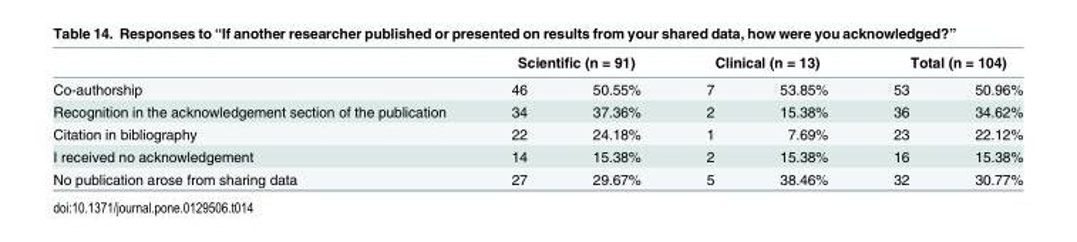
<table><thead><tr><td rowspan="2">Co-authorship</td><td colspan="2">Scientific (n = 91)</td><td colspan="2">Clinical (n = 13)</td><td colspan="2">Total (n = 104)</td></tr><tr><td>46</td><td>50.55%</td><td>7</td><td>53.85%</td><td>53</td><td>50.96%</td></tr></thead><tbody><tr><td>Recognition in the acknowledgement section of the publication</td><td>34</td><td>37.36%</td><td>2</td><td>15.38%</td><td>36</td><td>34.62%</td></tr><tr><td>Citation in bibliography</td><td>22</td><td>24.18%</td><td>1</td><td>7.69%</td><td>23</td><td>22.12%</td></tr><tr><td>I received no acknowledgement</td><td>14</td><td>15.38%</td><td>2</td><td>15.38%</td><td>16</td><td>15.38%</td></tr><tr><td>No publication arose from sharing data</td><td>27</td><td>29.67%</td><td>5</td><td>38.46%</td><td>32</td><td>30.77%</td></tr></tbody></table>